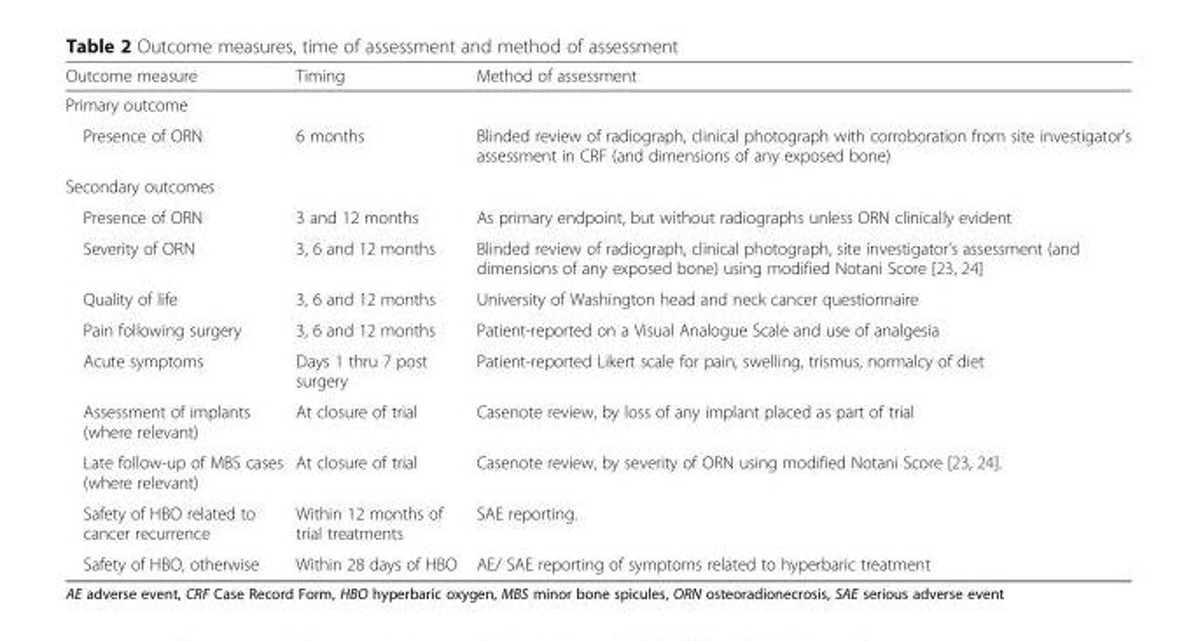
<table><thead><tr><td>Outcome measure</td><td>Timing</td><td>Method of assessment</td></tr></thead><tbody><tr><td colspan="3">Primary outcome</td></tr><tr><td>Presence of ORN</td><td>6 months</td><td>Blinded review of radiograph, clinical photograph with corroboration from site investigator’s assessment in CRF (and dimensions of any exposed bone)</td></tr><tr><td colspan="3">Secondary outcomes</td></tr><tr><td>Presence of ORN</td><td>3 and 12 months</td><td>As primary endpoint, but without radiographs unless ORN clinically evident</td></tr><tr><td>Severity of ORN</td><td>3, 6 and 12 months</td><td>Blinded review of radiograph, clinical photograph, site investigator’s assessment (and dimensions of any exposed bone) using modified Notani Score [23, 24]</td></tr><tr><td>Quality of life</td><td>3, 6 and 12 months</td><td>University of Washington head and neck cancer questionnaire</td></tr><tr><td>Pain following surgery</td><td>3, 6 and 12 months</td><td>Patient-reported on a Visual Analogue Scale and use of analgesia</td></tr><tr><td>Acute symptoms</td><td>Days 1 thru 7 post surgery</td><td>Patient-reported Likert scale for pain, swelling, trismus, normalcy of diet</td></tr><tr><td>Assessment of implants (where relevant)</td><td>At closure of trial</td><td>Casenote review, by loss of any implant placed as part of trial</td></tr><tr><td>Late follow-up of MBS cases (where relevant)</td><td>At closure of trial</td><td>Casenote review, by severity of ORN using modified Notani Score [23, 24].</td></tr><tr><td>Safety of HBO related to cancer recurrence</td><td>Within 12 months of trial treatments</td><td>SAE reporting.</td></tr><tr><td>Safety of HBO, otherwise</td><td>Within 28 days of HBO</td><td>AE/ SAE reporting of symptoms related to hyperbaric treatment</td></tr></tbody></table>